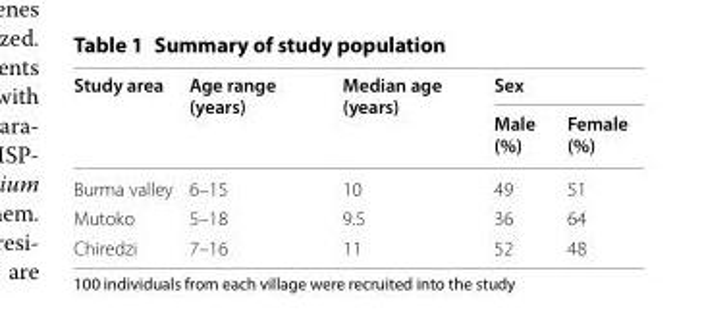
<table><thead><tr><td rowspan="2">Study area</td><td rowspan="2">Age range (years)</td><td rowspan="2">Median age (years)</td><td colspan="2">Sex</td></tr><tr><td>Male (%)</td><td>Female (%)</td></tr></thead><tbody><tr><td>Burma valley</td><td>6–15</td><td>10</td><td>49</td><td>51</td></tr><tr><td>Mutoko</td><td>5–18</td><td>9.5</td><td>36</td><td>64</td></tr><tr><td>Chiredzi</td><td>7–16</td><td>11</td><td>52</td><td>48</td></tr></tbody></table>